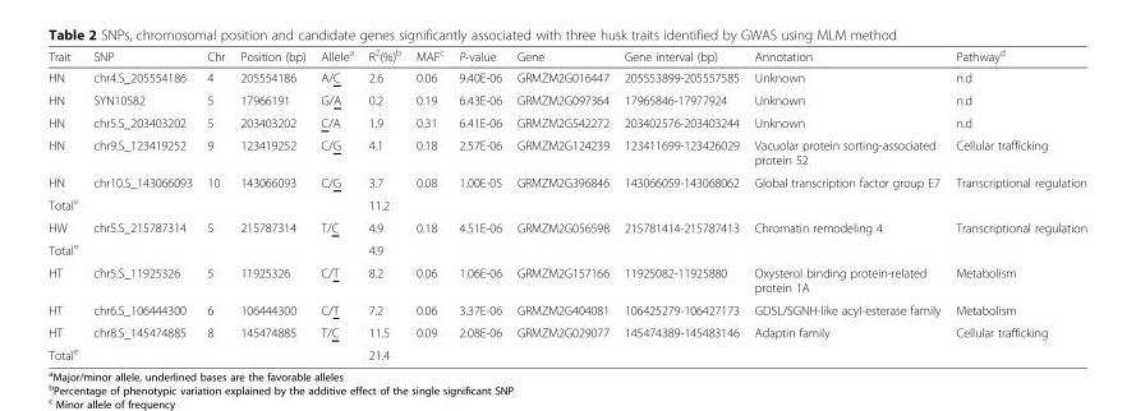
<table><thead><tr><td>Trait</td><td>SNP</td><td>Chr</td><td>Position (bp)</td><td>Allele<sup>a</sup></td><td>R<sup>2</sup>(%)<sup>b</sup></td><td>MAF<sup>c</sup></td><td>P-value</td><td>Gene</td><td>Gene interval (bp)</td><td>Annotation</td><td>Pathway<sup>d</sup></td></tr></thead><tbody><tr><td>HN</td><td>chr4.S_205554186</td><td>4</td><td>205554186</td><td>A/C</td><td>2.6</td><td>0.06</td><td>9.40E-06</td><td>GRMZM2G016447</td><td>205553899-205557585</td><td>Unknown</td><td>n.d</td></tr><tr><td>HN</td><td>SYN10582</td><td>5</td><td>17966191</td><td>G/A</td><td>0.2</td><td>0.19</td><td>6.43E-06</td><td>GRMZM2G097364</td><td>17965846-17977924</td><td>Unknown</td><td>n.d</td></tr><tr><td>HN</td><td>chr5.S_203403202</td><td>5</td><td>203403202</td><td>C/A</td><td>1.9</td><td>0.31</td><td>6.41E-06</td><td>GRMZM2G542272</td><td>203402576-203403244</td><td>Unknown</td><td>n.d</td></tr><tr><td>HN</td><td>chr9.S_123419252</td><td>9</td><td>123419252</td><td>C/G</td><td>4.1</td><td>0.18</td><td>2.57E-06</td><td>GRMZM2G124239</td><td>123411699-123426029</td><td>Vacuolar protein sorting-associated protein 52</td><td>Cellular trafficking</td></tr><tr><td>HN</td><td>chr10.S_143066093</td><td>10</td><td>143066093</td><td>C/G</td><td>3.7</td><td>0.08</td><td>1.00E-05</td><td>GRMZM2G396846</td><td>143066059-143068062</td><td>Global transcription factor group E7</td><td>Transcriptional regulation</td></tr><tr><td>Total<sup>e</sup></td><td></td><td></td><td></td><td></td><td>11.2</td><td></td><td></td><td></td><td></td><td></td><td></td></tr><tr><td>HW</td><td>chr5.S_215787314</td><td>5</td><td>215787314</td><td>T/C</td><td>4.9</td><td>0.18</td><td>4.51E-06</td><td>GRMZM2G056598</td><td>215781414-215787413</td><td>Chromatin remodeling 4</td><td>Transcriptional regulation</td></tr><tr><td>Total<sup>e</sup></td><td></td><td></td><td></td><td></td><td>4.9</td><td></td><td></td><td></td><td></td><td></td><td></td></tr><tr><td>HT</td><td>chr5.S_11925326</td><td>5</td><td>11925326</td><td>C/T</td><td>8.2</td><td>0.06</td><td>1.06E-06</td><td>GRMZM2G157166</td><td>11925082-11925880</td><td>Oxysterol binding protein-related protein 1A</td><td>Metabolism</td></tr><tr><td>HT</td><td>chr6.S_106444300</td><td>6</td><td>106444300</td><td>C/T</td><td>7.2</td><td>0.06</td><td>3.37E-06</td><td>GRMZM2G404081</td><td>106425279-106427173</td><td>GDSL/SGNH-like acyl-esterase family</td><td>Metabolism</td></tr><tr><td>HT</td><td>chr8.S_145474885</td><td>8</td><td>145474885</td><td>T/C</td><td>11.5</td><td>0.09</td><td>2.08E-06</td><td>GRMZM2G029077</td><td>145474389-145483146</td><td>Adaptin family</td><td>Cellular trafficking</td></tr><tr><td>Total<sup>e</sup></td><td></td><td></td><td></td><td></td><td>21.4</td><td></td><td></td><td></td><td></td><td></td><td></td></tr></tbody></table>